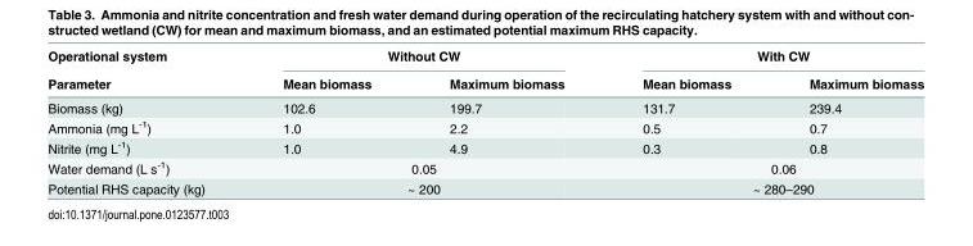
<table><thead><tr><td rowspan="2">Operational system Parameter</td><td colspan="2">Without CW</td><td colspan="2">With CW</td></tr><tr><td>Mean biomass</td><td>Maximum biomass</td><td>Mean biomass</td><td>Maximum biomass</td></tr></thead><tbody><tr><td>Biomass (kg)</td><td>102.6</td><td>199.7</td><td>131.7</td><td>239.4</td></tr><tr><td>Ammonia (mg L<sup>-1</sup>)</td><td>1.0</td><td>2.2</td><td>0.5</td><td>0.7</td></tr><tr><td>Nitrite (mg L<sup>-1</sup>)</td><td>1.0</td><td>4.9</td><td>0.3</td><td>0.8</td></tr><tr><td>Water demand (L s<sup>-1</sup>)</td><td colspan="2">0.05</td><td colspan="2">0.06</td></tr><tr><td>Potential RHS capacity (kg)</td><td colspan="2">~ 200</td><td colspan="2">~ 280–290</td></tr></tbody></table>